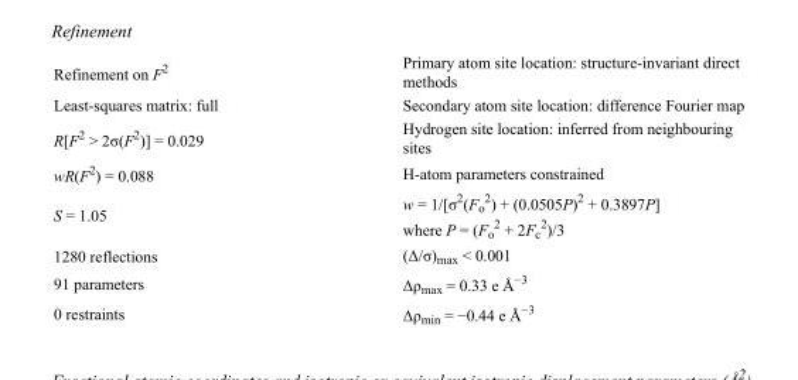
<table><tbody><tr><td>Refinement on F<sup>2</sup></td><td>Primary atom site location: structure-invariant direct methods</td></tr><tr><td>Least-squares matrix: full</td><td>Secondary atom site location: difference Fourier map</td></tr><tr><td>R[F<sup>2</sup> &gt; 2σ(F<sup>2</sup>)] = 0.029</td><td>Hydrogen site location: inferred from neighbouring sites</td></tr><tr><td>wR(F<sup>2</sup>) = 0.088</td><td>H-atom parameters constrained</td></tr><tr><td>S = 1.05</td><td>w = 1/[σ<sup>2</sup>(F<sub>o</sub> <sup>2</sup>) + (0.0505P)<sup>2</sup> + 0.3897P] where P = (F<sub>o</sub> <sup>2</sup> + 2F<sub>c</sub> <sup>2</sup>)/3</td></tr><tr><td>1280 reflections</td><td>(Δ/σ)<sub>max</sub> &lt; 0.001</td></tr><tr><td>91 parameters</td><td>Δρ<sub>max</sub> = 0.33 e Å<sup>−3</sup></td></tr><tr><td>0 restraints</td><td>Δρ<sub>min</sub> = −0.44 e Å<sup>−3</sup></td></tr></tbody></table>